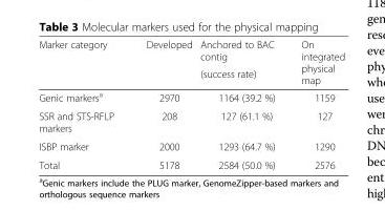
<table><thead><tr><td rowspan="2">Marker category</td><td rowspan="2">Developed</td><td rowspan="2">Anchored to BAC contig (success rate)</td><td rowspan="2">On integrated physical map</td></tr><tr></tr></thead><tbody><tr><td>Genic markers<sup>a</sup></td><td>2970</td><td>1164 (39.2 %)</td><td>1159</td></tr><tr><td>SSR and STS-RFLP markers</td><td>208</td><td>127 (61.1 %)</td><td>127</td></tr><tr><td>ISBP marker</td><td>2000</td><td>1293 (64.7 %)</td><td>1290</td></tr><tr><td>Total</td><td>5178</td><td>2584 (50.0 %)</td><td>2576</td></tr></tbody></table>